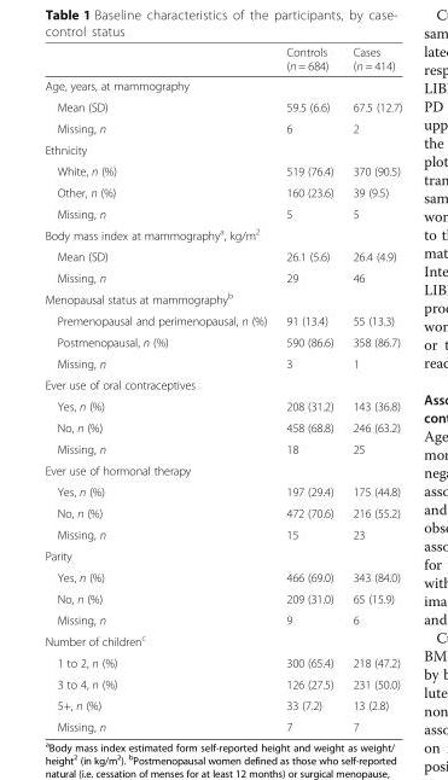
<table><thead><tr><td></td><td>Controls (n = 684)</td><td>Cases (n = 414)</td></tr></thead><tbody><tr><td colspan="3">Age, years, at mammography</td></tr><tr><td>Mean (SD)</td><td>59.5 (6.6)</td><td>67.5 (12.7)</td></tr><tr><td>Missing, n</td><td>6</td><td>2</td></tr><tr><td colspan="3">Ethnicity</td></tr><tr><td>White, n (%)</td><td>519 (76.4)</td><td>370 (90.5)</td></tr><tr><td>Other, n (%)</td><td>160 (23.6)</td><td>39 (9.5)</td></tr><tr><td>Missing, n</td><td>5</td><td>5</td></tr><tr><td colspan="3">Body mass index at mammography<sup>a</sup>, kg/m<sup>2</sup></td></tr><tr><td>Mean (SD)</td><td>26.1 (5.6)</td><td>26.4 (4.9)</td></tr><tr><td>Missing, n</td><td>29</td><td>46</td></tr><tr><td colspan="3">Menopausal status at mammography<sup>b</sup></td></tr><tr><td>Premenopausal and perimenopausal, n (%)</td><td>91 (13.4)</td><td>55 (13.3)</td></tr><tr><td>Postmenopausal, n (%)</td><td>590 (86.6)</td><td>358 (86.7)</td></tr><tr><td>Missing, n</td><td>3</td><td>1</td></tr><tr><td colspan="3">Ever use of oral contraceptives</td></tr><tr><td>Yes, n (%)</td><td>208 (31.2)</td><td>143 (36.8)</td></tr><tr><td>No, n (%)</td><td>458 (68.8)</td><td>246 (63.2)</td></tr><tr><td>Missing, n</td><td>18</td><td>25</td></tr><tr><td colspan="3">Ever use of hormonal therapy</td></tr><tr><td>Yes, n (%)</td><td>197 (29.4)</td><td>175 (44.8)</td></tr><tr><td>No, n (%)</td><td>472 (70.6)</td><td>216 (55.2)</td></tr><tr><td>Missing, n</td><td>15</td><td>23</td></tr><tr><td colspan="3">Parity</td></tr><tr><td>Yes, n (%)</td><td>466 (69.0)</td><td>343 (84.0)</td></tr><tr><td>No, n (%)</td><td>209 (31.0)</td><td>65 (15.9)</td></tr><tr><td>Missing, n</td><td>9</td><td>6</td></tr><tr><td colspan="3">Number of children<sup>c</sup></td></tr><tr><td>1 to 2, n (%)</td><td>300 (65.4)</td><td>218 (47.2)</td></tr><tr><td>3 to 4, n (%)</td><td>126 (27.5)</td><td>231 (50.0)</td></tr><tr><td>5+, n (%)</td><td>33 (7.2)</td><td>13 (2.8)</td></tr><tr><td>Missing, n</td><td>7</td><td>7</td></tr></tbody></table>